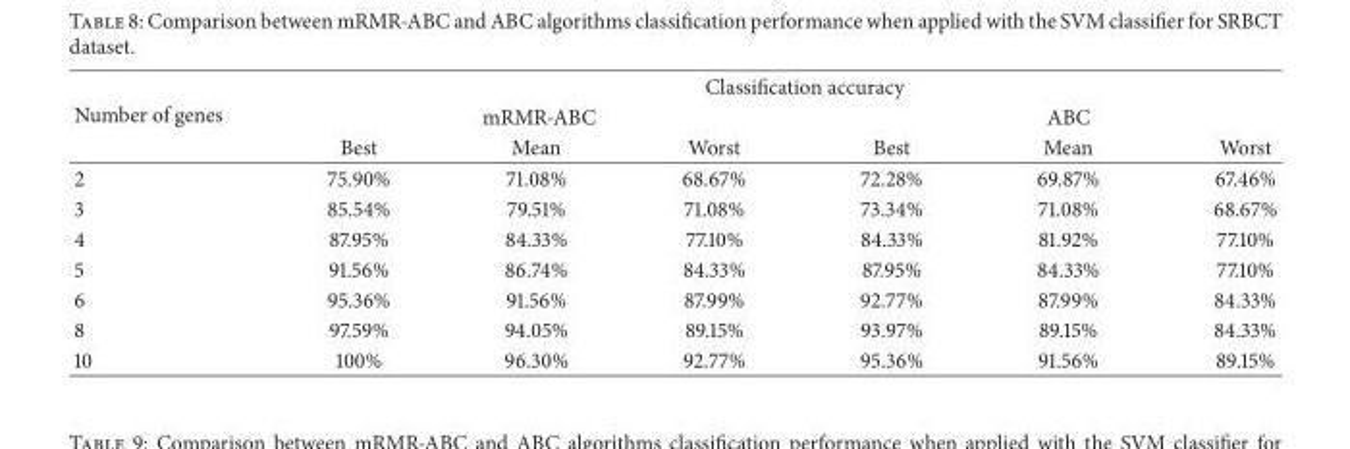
<table><thead><tr><td rowspan="3">Number of genes</td><td colspan="6">Classification accuracy</td></tr><tr><td colspan="3">mRMR-ABC</td><td colspan="3">ABC</td></tr><tr><td>Best</td><td>Mean</td><td>Worst</td><td>Best</td><td>Mean</td><td>Worst</td></tr></thead><tbody><tr><td>2</td><td>75.90%</td><td>71.08%</td><td>68.67%</td><td>72.28%</td><td>69.87%</td><td>67.46%</td></tr><tr><td>3</td><td>85.54%</td><td>79.51%</td><td>71.08%</td><td>73.34%</td><td>71.08%</td><td>68.67%</td></tr><tr><td>4</td><td>87.95%</td><td>84.33%</td><td>77.10%</td><td>84.33%</td><td>81.92%</td><td>77.10%</td></tr><tr><td>5</td><td>91.56%</td><td>86.74%</td><td>84.33%</td><td>87.95%</td><td>84.33%</td><td>77.10%</td></tr><tr><td>6</td><td>95.36%</td><td>91.56%</td><td>87.99%</td><td>92.77%</td><td>87.99%</td><td>84.33%</td></tr><tr><td>8</td><td>97.59%</td><td>94.05%</td><td>89.15%</td><td>93.97%</td><td>89.15%</td><td>84.33%</td></tr><tr><td>10</td><td>100%</td><td>96.30%</td><td>92.77%</td><td>95.36%</td><td>91.56%</td><td>89.15%</td></tr></tbody></table>